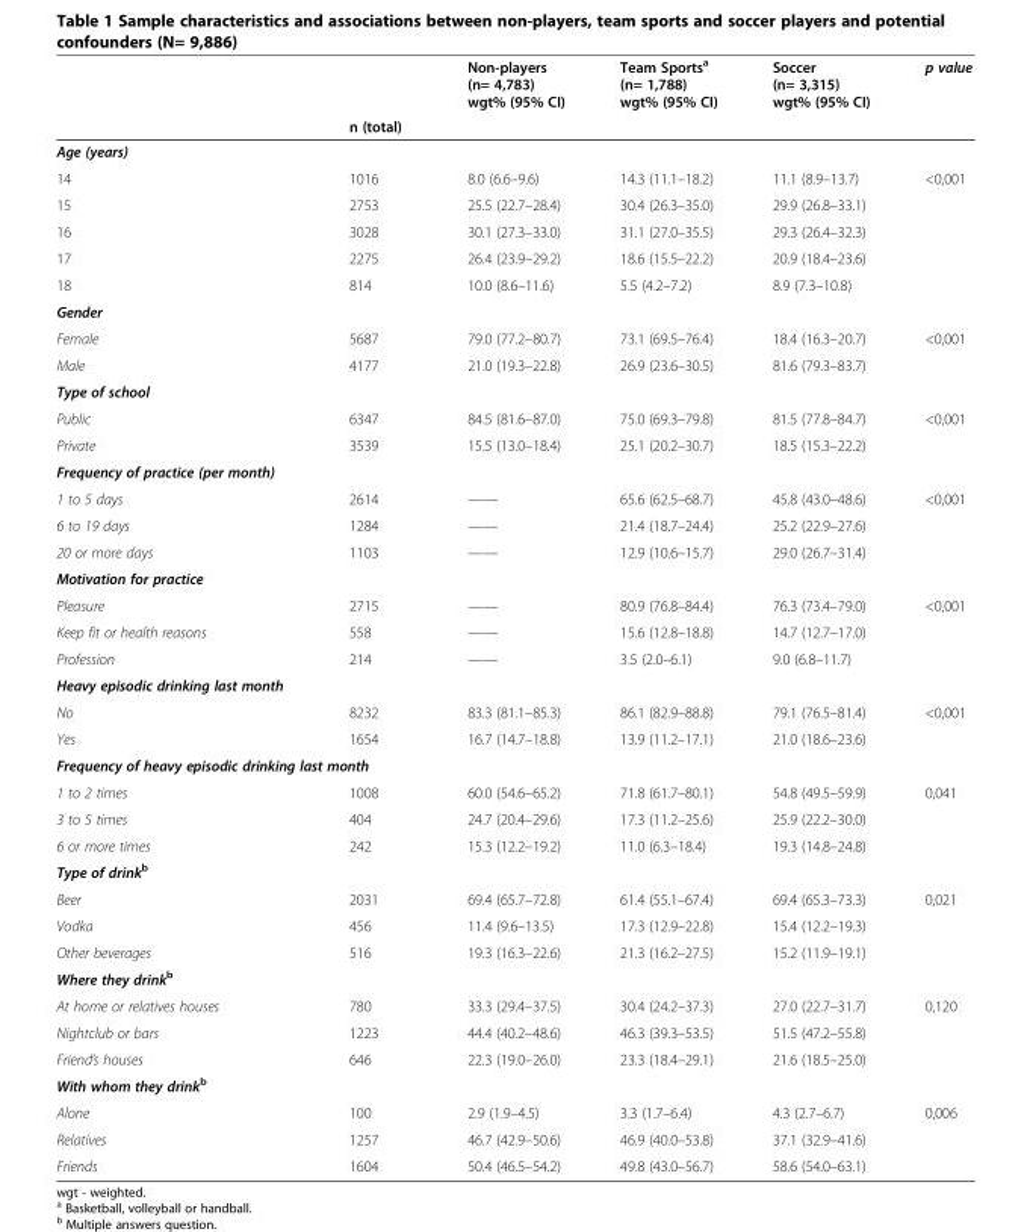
<table><thead><tr><td rowspan="2"></td><td rowspan="2">n (total)</td><td rowspan="2">Non-players (n= 4,783) wgt% (95% CI)</td><td rowspan="2">Team Sports<sup>a</sup> (n= 1,788) wgt% (95% CI)</td><td rowspan="2">Soccer (n= 3,315) wgt% (95% CI)</td><td rowspan="2">p value</td></tr><tr></tr></thead><tbody><tr><td colspan="6">Age (years)</td></tr><tr><td>14</td><td>1016</td><td>8.0 (6.6–9.6)</td><td>14.3 (11.1–18.2)</td><td>11.1 (8.9–13.7)</td><td rowspan="5">&lt;0,001</td></tr><tr><td>15</td><td>2753</td><td>25.5 (22.7–28.4)</td><td>30.4 (26.3–35.0)</td><td>29.9 (26.8–33.1)</td></tr><tr><td>16</td><td>3028</td><td>30.1 (27.3–33.0)</td><td>31.1 (27.0–35.5)</td><td>29.3 (26.4–32.3)</td></tr><tr><td>17</td><td>2275</td><td>26.4 (23.9–29.2)</td><td>18.6 (15.5–22.2)</td><td>20.9 (18.4–23.6)</td></tr><tr><td>18</td><td>814</td><td>10.0 (8.6–11.6)</td><td>5.5 (4.2–7.2)</td><td>8.9 (7.3–10.8)</td></tr><tr><td colspan="6">Gender</td></tr><tr><td>Female</td><td>5687</td><td>79.0 (77.2–80.7)</td><td>73.1 (69.5–76.4)</td><td>18.4 (16.3–20.7)</td><td rowspan="2">&lt;0,001</td></tr><tr><td>Male</td><td>4177</td><td>21.0 (19.3–22.8)</td><td>26.9 (23.6–30.5)</td><td>81.6 (79.3–83.7)</td></tr><tr><td colspan="6">Type of school</td></tr><tr><td>Public</td><td>6347</td><td>84.5 (81.6–87.0)</td><td>75.0 (69.3–79.8)</td><td>81.5 (77.8–84.7)</td><td rowspan="2">&lt;0,001</td></tr><tr><td>Private</td><td>3539</td><td>15.5 (13.0–18.4)</td><td>25.1 (20.2–30.7)</td><td>18.5 (15.3–22.2)</td></tr><tr><td colspan="6">Frequency of practice (per month)</td></tr><tr><td>1 to 5 days</td><td>2614</td><td>——</td><td>65.6 (62.5–68.7)</td><td>45.8 (43.0–48.6)</td><td rowspan="3">&lt;0,001</td></tr><tr><td>6 to 19 days</td><td>1284</td><td>——</td><td>21.4 (18.7–24.4)</td><td>25.2 (22.9–27.6)</td></tr><tr><td>20 or more days</td><td>1103</td><td>——</td><td>12.9 (10.6–15.7)</td><td>29.0 (26.7–31.4)</td></tr><tr><td colspan="6">Motivation for practice</td></tr><tr><td>Pleasure</td><td>2715</td><td>——</td><td>80.9 (76.8–84.4)</td><td>76.3 (73.4–79.0)</td><td rowspan="3">&lt;0,001</td></tr><tr><td>Keep fit or health reasons</td><td>558</td><td>——</td><td>15.6 (12.8–18.8)</td><td>14.7 (12.7–17.0)</td></tr><tr><td>Profession</td><td>214</td><td>——</td><td>3.5 (2.0–6.1)</td><td>9.0 (6.8–11.7)</td></tr><tr><td colspan="6">Heavy episodic drinking last month</td></tr><tr><td>No</td><td>8232</td><td>83.3 (81.1–85.3)</td><td>86.1 (82.9–88.8)</td><td>79.1 (76.5–81.4)</td><td rowspan="2">&lt;0,001</td></tr><tr><td>Yes</td><td>1654</td><td>16.7 (14.7–18.8)</td><td>13.9 (11.2–17.1)</td><td>21.0 (18.6–23.6)</td></tr><tr><td colspan="6">Frequency of heavy episodic drinking last month</td></tr><tr><td>1 to 2 times</td><td>1008</td><td>60.0 (54.6–65.2)</td><td>71.8 (61.7–80.1)</td><td>54.8 (49.5–59.9)</td><td rowspan="3">0,041</td></tr><tr><td>3 to 5 times</td><td>404</td><td>24.7 (20.4–29.6)</td><td>17.3 (11.2–25.6)</td><td>25.9 (22.2–30.0)</td></tr><tr><td>6 or more times</td><td>242</td><td>15.3 (12.2–19.2)</td><td>11.0 (6.3–18.4)</td><td>19.3 (14.8–24.8)</td></tr><tr><td colspan="6">Type of drink<sup>b</sup></td></tr><tr><td>Beer</td><td>2031</td><td>69.4 (65.7–72.8)</td><td>61.4 (55.1–67.4)</td><td>69.4 (65.3–73.3)</td><td rowspan="3">0,021</td></tr><tr><td>Vodka</td><td>456</td><td>11.4 (9.6–13.5)</td><td>17.3 (12.9–22.8)</td><td>15.4 (12.2–19.3)</td></tr><tr><td>Other beverages</td><td>516</td><td>19.3 (16.3–22.6)</td><td>21.3 (16.2–27.5)</td><td>15.2 (11.9–19.1)</td></tr><tr><td colspan="6">Where they drink<sup>b</sup></td></tr><tr><td>At home or relatives houses</td><td>780</td><td>33.3 (29.4–37.5)</td><td>30.4 (24.2–37.3)</td><td>27.0 (22.7–31.7)</td><td rowspan="3">0,120</td></tr><tr><td>Nightclub or bars</td><td>1223</td><td>44.4 (40.2–48.6)</td><td>46.3 (39.3–53.5)</td><td>51.5 (47.2–55.8)</td></tr><tr><td>Friend’s houses</td><td>646</td><td>22.3 (19.0–26.0)</td><td>23.3 (18.4–29.1)</td><td>21.6 (18.5–25.0)</td></tr><tr><td colspan="6">With whom they drink<sup>b</sup></td></tr><tr><td>Alone</td><td>100</td><td>2.9 (1.9–4.5)</td><td>3.3 (1.7–6.4)</td><td>4.3 (2.7–6.7)</td><td rowspan="2">0,006</td></tr><tr><td>Relatives</td><td>1257</td><td>46.7 (42.9–50.6)</td><td>46.9 (40.0–53.8)</td><td>37.1 (32.9–41.6)</td></tr><tr><td>Friends</td><td>1604</td><td>50.4 (46.5–54.2)</td><td>49.8 (43.0–56.7)</td><td>58.6 (54.0–63.1)</td><td></td></tr></tbody></table>